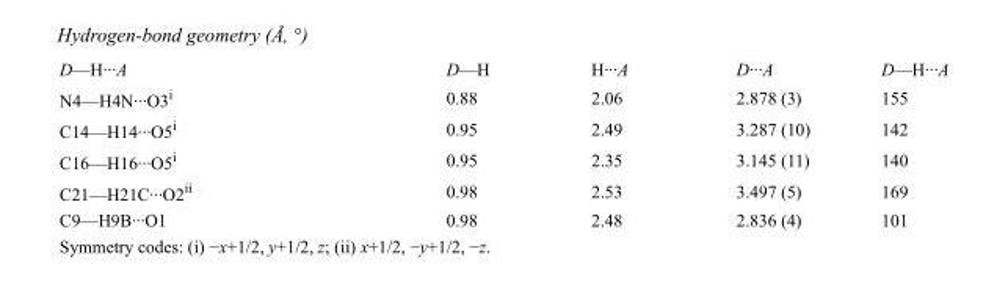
<table><tbody><tr><td>D—H···A</td><td>D—H</td><td>H···A</td><td>D···A</td><td>D—H···A</td></tr><tr><td>N4—H4N···O3<sup>i</sup></td><td>0.88</td><td>2.06</td><td>2.878 (3)</td><td>155</td></tr><tr><td>C14—H14···O5<sup>i</sup></td><td>0.95</td><td>2.49</td><td>3.287 (10)</td><td>142</td></tr><tr><td>C16—H16···O5<sup>i</sup></td><td>0.95</td><td>2.35</td><td>3.145 (11)</td><td>140</td></tr><tr><td>C21—H21C···O2<sup>ii</sup></td><td>0.98</td><td>2.53</td><td>3.497 (5)</td><td>169</td></tr><tr><td>C9—H9B···O1</td><td>0.98</td><td>2.48</td><td>2.836 (4)</td><td>101</td></tr></tbody></table>